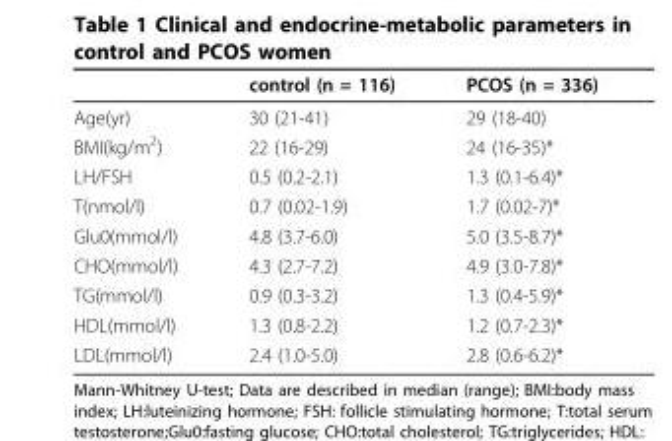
<table><thead><tr><td></td><td>control (n = 116)</td><td>PCOS (n = 336)</td></tr></thead><tbody><tr><td>Age(yr)</td><td>30 (21-41)</td><td>29 (18-40)</td></tr><tr><td>BMI(kg/m<sup>2</sup>)</td><td>22 (16-29)</td><td>24 (16-35)*</td></tr><tr><td>LH/FSH</td><td>0.5 (0.2-2.1)</td><td>1.3 (0.1-6.4)*</td></tr><tr><td>T(nmol/l)</td><td>0.7 (0.02-1.9)</td><td>1.7 (0.02-7)*</td></tr><tr><td>Glu0(mmol/l)</td><td>4.8 (3.7-6.0)</td><td>5.0 (3.5-8.7)*</td></tr><tr><td>CHO(mmol/l)</td><td>4.3 (2.7-7.2)</td><td>4.9 (3.0-7.8)*</td></tr><tr><td>TG(mmol/l)</td><td>0.9 (0.3-3.2)</td><td>1.3 (0.4-5.9)*</td></tr><tr><td>HDL(mmol/l)</td><td>1.3 (0.8-2.2)</td><td>1.2 (0.7-2.3)*</td></tr><tr><td>LDL(mmol/l)</td><td>2.4 (1.0-5.0)</td><td>2.8 (0.6-6.2)*</td></tr></tbody></table>